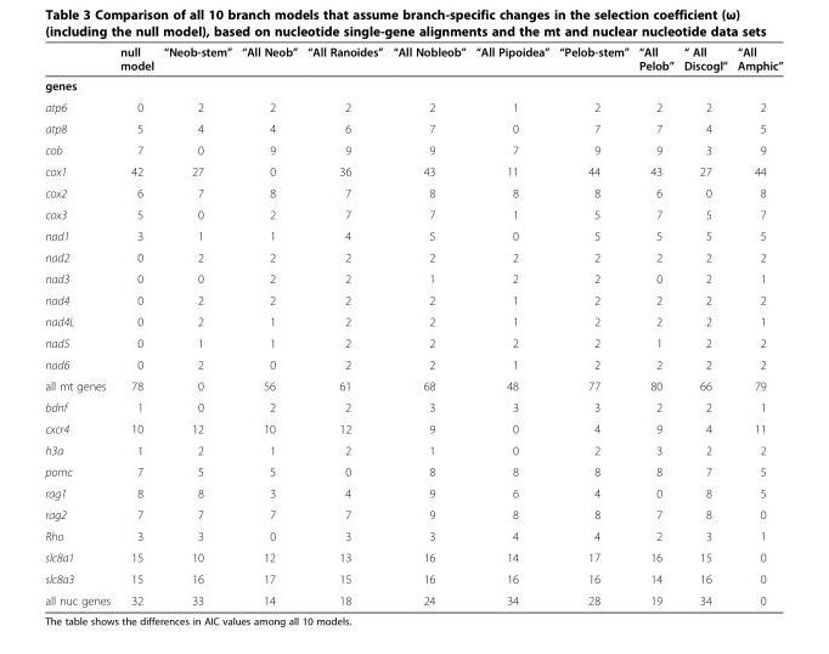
<table><thead><tr><td></td><td>null model</td><td>“Neob-stem”</td><td>“All Neob”</td><td>“All Ranoides”</td><td>“All Nobleob”</td><td>“All Pipoidea”</td><td>“Pelob-stem”</td><td>“All Pelob”</td><td>“ All Discogl”</td><td>“All Amphic”</td></tr></thead><tbody><tr><td colspan="11">genes</td></tr><tr><td>atp6</td><td>0</td><td>2</td><td>2</td><td>2</td><td>2</td><td>1</td><td>2</td><td>2</td><td>2</td><td>2</td></tr><tr><td>atp8</td><td>5</td><td>4</td><td>4</td><td>6</td><td>7</td><td>0</td><td>7</td><td>7</td><td>4</td><td>5</td></tr><tr><td>cob</td><td>7</td><td>0</td><td>9</td><td>9</td><td>9</td><td>7</td><td>9</td><td>9</td><td>3</td><td>9</td></tr><tr><td>cox1</td><td>42</td><td>27</td><td>0</td><td>36</td><td>43</td><td>11</td><td>44</td><td>43</td><td>27</td><td>44</td></tr><tr><td>cox2</td><td>6</td><td>7</td><td>8</td><td>7</td><td>8</td><td>8</td><td>8</td><td>6</td><td>0</td><td>8</td></tr><tr><td>cox3</td><td>5</td><td>0</td><td>2</td><td>7</td><td>7</td><td>1</td><td>5</td><td>7</td><td>5</td><td>7</td></tr><tr><td>nad1</td><td>3</td><td>1</td><td>1</td><td>4</td><td>5</td><td>0</td><td>5</td><td>5</td><td>5</td><td>5</td></tr><tr><td>nad2</td><td>0</td><td>2</td><td>2</td><td>2</td><td>2</td><td>2</td><td>2</td><td>2</td><td>2</td><td>2</td></tr><tr><td>nad3</td><td>0</td><td>0</td><td>2</td><td>2</td><td>1</td><td>2</td><td>2</td><td>0</td><td>2</td><td>1</td></tr><tr><td>nad4</td><td>0</td><td>2</td><td>2</td><td>2</td><td>2</td><td>1</td><td>2</td><td>2</td><td>2</td><td>2</td></tr><tr><td>nad4L</td><td>0</td><td>2</td><td>1</td><td>2</td><td>2</td><td>1</td><td>2</td><td>2</td><td>2</td><td>1</td></tr><tr><td>nad5</td><td>0</td><td>1</td><td>1</td><td>2</td><td>2</td><td>2</td><td>2</td><td>1</td><td>2</td><td>2</td></tr><tr><td>nad6</td><td>0</td><td>2</td><td>0</td><td>2</td><td>2</td><td>1</td><td>2</td><td>2</td><td>2</td><td>2</td></tr><tr><td>all mt genes</td><td>78</td><td>0</td><td>56</td><td>61</td><td>68</td><td>48</td><td>77</td><td>80</td><td>66</td><td>79</td></tr><tr><td>bdnf</td><td>1</td><td>0</td><td>2</td><td>2</td><td>3</td><td>3</td><td>3</td><td>2</td><td>2</td><td>1</td></tr><tr><td>cxcr4</td><td>10</td><td>12</td><td>10</td><td>12</td><td>9</td><td>0</td><td>4</td><td>9</td><td>4</td><td>11</td></tr><tr><td>h3a</td><td>1</td><td>2</td><td>1</td><td>2</td><td>1</td><td>0</td><td>2</td><td>3</td><td>2</td><td>2</td></tr><tr><td>pomc</td><td>7</td><td>5</td><td>5</td><td>0</td><td>8</td><td>8</td><td>8</td><td>8</td><td>7</td><td>5</td></tr><tr><td>rag1</td><td>8</td><td>8</td><td>3</td><td>4</td><td>9</td><td>6</td><td>4</td><td>0</td><td>8</td><td>5</td></tr><tr><td>rag2</td><td>7</td><td>7</td><td>7</td><td>7</td><td>9</td><td>8</td><td>8</td><td>7</td><td>8</td><td>0</td></tr><tr><td>Rho</td><td>3</td><td>3</td><td>0</td><td>3</td><td>3</td><td>4</td><td>4</td><td>2</td><td>3</td><td>1</td></tr><tr><td>slc8a1</td><td>15</td><td>10</td><td>12</td><td>13</td><td>16</td><td>14</td><td>17</td><td>16</td><td>15</td><td>0</td></tr><tr><td>slc8a3</td><td>15</td><td>16</td><td>17</td><td>15</td><td>16</td><td>16</td><td>16</td><td>14</td><td>16</td><td>0</td></tr><tr><td>all nuc genes</td><td>32</td><td>33</td><td>14</td><td>18</td><td>24</td><td>34</td><td>28</td><td>19</td><td>34</td><td>0</td></tr></tbody></table>